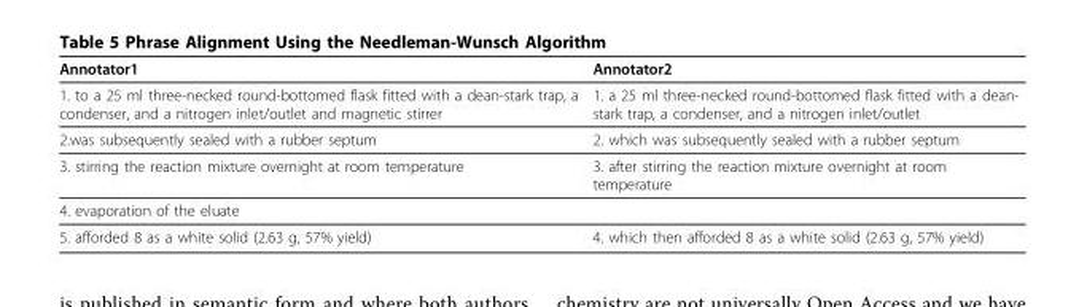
<table><thead><tr><td>Annotator1</td><td>Annotator2</td></tr></thead><tbody><tr><td>1. to a 25 ml three-necked round-bottomed flask fitted with a dean-stark trap, a condenser, and a nitrogen inlet/outlet and magnetic stirrer</td><td>1. a 25 ml three-necked round-bottomed flask fitted with a dean- stark trap, a condenser, and a nitrogen inlet/outlet</td></tr><tr><td>2.was subsequently sealed with a rubber septum</td><td>2. which was subsequently sealed with a rubber septum</td></tr><tr><td>3. stirring the reaction mixture overnight at room temperature</td><td>3. after stirring the reaction mixture overnight at room temperature</td></tr><tr><td colspan="2">4. evaporation of the eluate</td></tr><tr><td>5. afforded 8 as a white solid (2.63 g, 57% yield)</td><td>4. which then afforded 8 as a white solid (2.63 g, 57% yield)</td></tr></tbody></table>